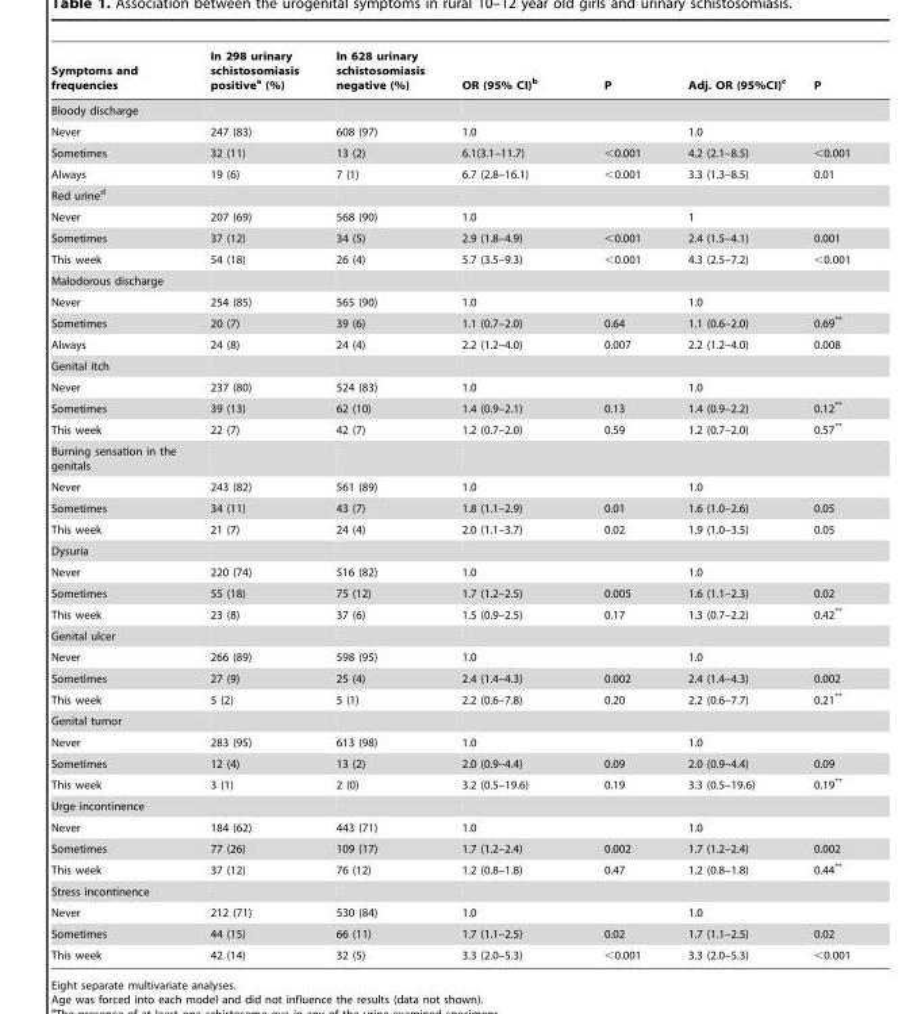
<table><thead><tr><td>Symptoms and frequencies</td><td>In 298 urinary schistosomiasis positive<sup>a</sup> (%)</td><td>In 628 urinary schistosomiasis negative (%)</td><td>OR (95% CI)<sup>b</sup></td><td>P</td><td>Adj. OR (95%CI)<sup>c</sup></td><td>P</td></tr></thead><tbody><tr><td colspan="7">Bloody discharge</td></tr><tr><td>Never</td><td>247 (83)</td><td>608 (97)</td><td>1.0</td><td></td><td>1.0</td><td></td></tr><tr><td>Sometimes</td><td>32 (11)</td><td>13 (2)</td><td>6.1(3.1–11.7)</td><td>&lt;0.001</td><td>4.2 (2.1–8.5)</td><td>&lt;0.001</td></tr><tr><td>Always</td><td>19 (6)</td><td>7 (1)</td><td>6.7 (2.8–16.1)</td><td>&lt;0.001</td><td>3.3 (1.3–8.5)</td><td>0.01</td></tr><tr><td colspan="7">Red urine<sup>d</sup></td></tr><tr><td>Never</td><td>207 (69)</td><td>568 (90)</td><td>1.0</td><td></td><td>1</td><td></td></tr><tr><td>Sometimes</td><td>37 (12)</td><td>34 (5)</td><td>2.9 (1.8–4.9)</td><td>&lt;0.001</td><td>2.4 (1.5–4.1)</td><td>0.001</td></tr><tr><td>This week</td><td>54 (18)</td><td>26 (4)</td><td>5.7 (3.5–9.3)</td><td>&lt;0.001</td><td>4.3 (2.5–7.2)</td><td>&lt;0.001</td></tr><tr><td colspan="7">Malodorous discharge</td></tr><tr><td>Never</td><td>254 (85)</td><td>565 (90)</td><td>1.0</td><td></td><td>1.0</td><td></td></tr><tr><td>Sometimes</td><td>20 (7)</td><td>39 (6)</td><td>1.1 (0.7–2.0)</td><td>0.64</td><td>1.1 (0.6–2.0)</td><td>0.69**</td></tr><tr><td>Always</td><td>24 (8)</td><td>24 (4)</td><td>2.2 (1.2–4.0)</td><td>0.007</td><td>2.2 (1.2–4.0)</td><td>0.008</td></tr><tr><td colspan="7">Genital itch</td></tr><tr><td>Never</td><td>237 (80)</td><td>524 (83)</td><td>1.0</td><td></td><td>1.0</td><td></td></tr><tr><td>Sometimes</td><td>39 (13)</td><td>62 (10)</td><td>1.4 (0.9–2.1)</td><td>0.13</td><td>1.4 (0.9–2.2)</td><td>0.12**</td></tr><tr><td>This week</td><td>22 (7)</td><td>42 (7)</td><td>1.2 (0.7–2.0)</td><td>0.59</td><td>1.2 (0.7–2.0)</td><td>0.57**</td></tr><tr><td colspan="7">Burning sensation in the genitals</td></tr><tr><td>Never</td><td>243 (82)</td><td>561 (89)</td><td>1.0</td><td></td><td>1.0</td><td></td></tr><tr><td>Sometimes</td><td>34 (11)</td><td>43 (7)</td><td>1.8 (1.1–2.9)</td><td>0.01</td><td>1.6 (1.0–2.6)</td><td>0.05</td></tr><tr><td>This week</td><td>21 (7)</td><td>24 (4)</td><td>2.0 (1.1–3.7)</td><td>0.02</td><td>1.9 (1.0–3.5)</td><td>0.05</td></tr><tr><td colspan="7">Dysuria</td></tr><tr><td>Never</td><td>220 (74)</td><td>516 (82)</td><td>1.0</td><td></td><td>1.0</td><td></td></tr><tr><td>Sometimes</td><td>55 (18)</td><td>75 (12)</td><td>1.7 (1.2–2.5)</td><td>0.005</td><td>1.6 (1.1–2.3)</td><td>0.02</td></tr><tr><td>This week</td><td>23 (8)</td><td>37 (6)</td><td>1.5 (0.9–2.5)</td><td>0.17</td><td>1.3 (0.7–2.2)</td><td>0.42**</td></tr><tr><td colspan="7">Genital ulcer</td></tr><tr><td>Never</td><td>266 (89)</td><td>598 (95)</td><td>1.0</td><td></td><td>1.0</td><td></td></tr><tr><td>Sometimes</td><td>27 (9)</td><td>25 (4)</td><td>2.4 (1.4–4.3)</td><td>0.002</td><td>2.4 (1.4–4.3)</td><td>0.002</td></tr><tr><td>This week</td><td>5 (2)</td><td>5 (1)</td><td>2.2 (0.6–7.8)</td><td>0.20</td><td>2.2 (0.6–7.7)</td><td>0.21**</td></tr><tr><td colspan="7">Genital tumor</td></tr><tr><td>Never</td><td>283 (95)</td><td>613 (98)</td><td>1.0</td><td></td><td>1.0</td><td></td></tr><tr><td>Sometimes</td><td>12 (4)</td><td>13 (2)</td><td>2.0 (0.9–4.4)</td><td>0.09</td><td>2.0 (0.9–4.4)</td><td>0.09</td></tr><tr><td>This week</td><td>3 (1)</td><td>2 (0)</td><td>3.2 (0.5–19.6)</td><td>0.19</td><td>3.3 (0.5–19.6)</td><td>0.19**</td></tr><tr><td colspan="7">Urge incontinence</td></tr><tr><td>Never</td><td>184 (62)</td><td>443 (71)</td><td>1.0</td><td></td><td>1.0</td><td></td></tr><tr><td>Sometimes</td><td>77 (26)</td><td>109 (17)</td><td>1.7 (1.2–2.4)</td><td>0.002</td><td>1.7 (1.2–2.4)</td><td>0.002</td></tr><tr><td>This week</td><td>37 (12)</td><td>76 (12)</td><td>1.2 (0.8–1.8)</td><td>0.47</td><td>1.2 (0.8–1.8)</td><td>0.44**</td></tr><tr><td colspan="7">Stress incontinence</td></tr><tr><td>Never</td><td>212 (71)</td><td>530 (84)</td><td>1.0</td><td></td><td>1.0</td><td></td></tr><tr><td>Sometimes</td><td>44 (15)</td><td>66 (11)</td><td>1.7 (1.1–2.5)</td><td>0.02</td><td>1.7 (1.1–2.5)</td><td>0.02</td></tr><tr><td>This week</td><td>42 (14)</td><td>32 (5)</td><td>3.3 (2.0–5.3)</td><td>&lt;0.001</td><td>3.3 (2.0–5.3)</td><td>&lt;0.001</td></tr></tbody></table>